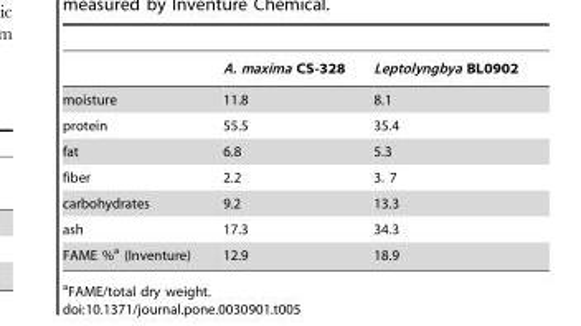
<table><thead><tr><td></td><td>A. maxima CS-328</td><td>Leptolyngbya BL0902</td></tr></thead><tbody><tr><td>moisture</td><td>11.8</td><td>8.1</td></tr><tr><td>protein</td><td>55.5</td><td>35.4</td></tr><tr><td>fat</td><td>6.8</td><td>5.3</td></tr><tr><td>fiber</td><td>2.2</td><td>3. 7</td></tr><tr><td>carbohydrates</td><td>9.2</td><td>13.3</td></tr><tr><td>ash</td><td>17.3</td><td>34.3</td></tr><tr><td>FAME %<sup>a</sup> (Inventure)</td><td>12.9</td><td>18.9</td></tr></tbody></table>